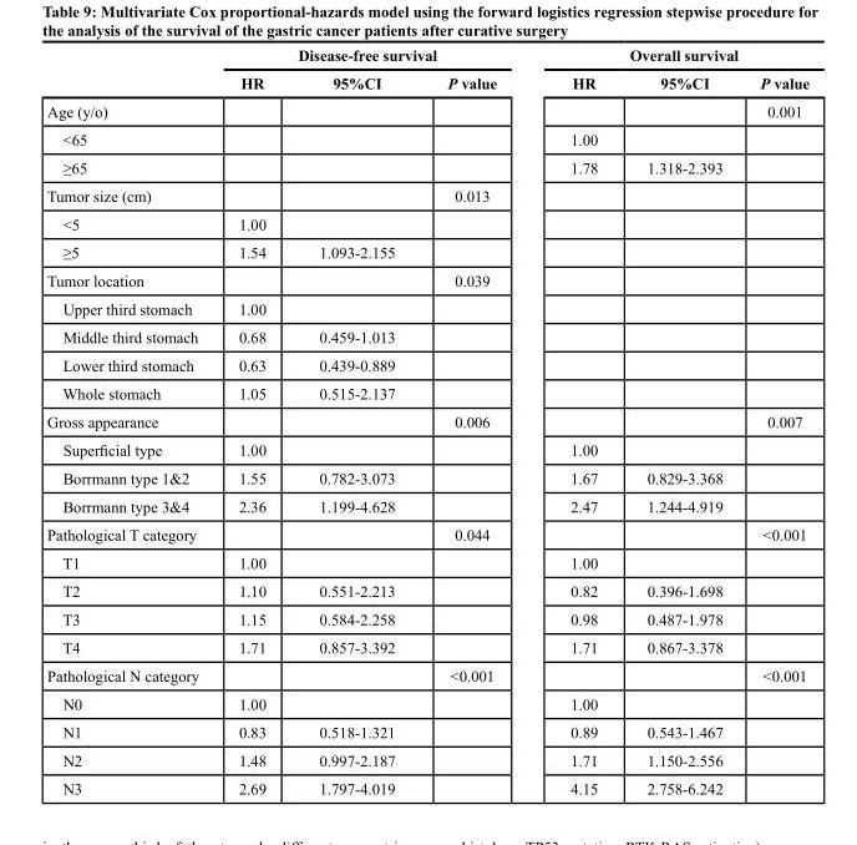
<table><thead><tr><td rowspan="2"></td><td colspan="3">Disease-free survival</td><td colspan="3">Overall survival</td></tr><tr><td>HR</td><td>95%CI</td><td>P value</td><td>HR</td><td>95%CI</td><td>P value</td></tr></thead><tbody><tr><td>Age (y/o)</td><td></td><td></td><td></td><td></td><td></td><td>0.001</td></tr><tr><td>&lt;65</td><td></td><td></td><td></td><td>1.00</td><td></td><td></td></tr><tr><td>≥65</td><td></td><td></td><td></td><td>1.78</td><td>1.318-2.393</td><td></td></tr><tr><td>Tumor size (cm)</td><td></td><td></td><td>0.013</td><td></td><td></td><td></td></tr><tr><td>&lt;5</td><td>1.00</td><td></td><td></td><td></td><td></td><td></td></tr><tr><td>≥5</td><td>1.54</td><td>1.093-2.155</td><td></td><td></td><td></td><td></td></tr><tr><td>Tumor location</td><td></td><td></td><td>0.039</td><td></td><td></td><td></td></tr><tr><td>Upper third stomach</td><td>1.00</td><td></td><td></td><td></td><td></td><td></td></tr><tr><td>Middle third stomach</td><td>0.68</td><td>0.459-1.013</td><td></td><td></td><td></td><td></td></tr><tr><td>Lower third stomach</td><td>0.63</td><td>0.439-0.889</td><td></td><td></td><td></td><td></td></tr><tr><td>Whole stomach</td><td>1.05</td><td>0.515-2.137</td><td></td><td></td><td></td><td></td></tr><tr><td>Gross appearance</td><td></td><td></td><td>0.006</td><td></td><td></td><td>0.007</td></tr><tr><td>Superficial type</td><td>1.00</td><td></td><td></td><td>1.00</td><td></td><td></td></tr><tr><td>Borrmann type 1&amp;2</td><td>1.55</td><td>0.782-3.073</td><td></td><td>1.67</td><td>0.829-3.368</td><td></td></tr><tr><td>Borrmann type 3&amp;4</td><td>2.36</td><td>1.199-4.628</td><td></td><td>2.47</td><td>1.244-4.919</td><td></td></tr><tr><td>Pathological T category</td><td></td><td></td><td>0.044</td><td></td><td></td><td>&lt;0.001</td></tr><tr><td>T1</td><td>1.00</td><td></td><td></td><td>1.00</td><td></td><td></td></tr><tr><td>T2</td><td>1.10</td><td>0.551-2.213</td><td></td><td>0.82</td><td>0.396-1.698</td><td></td></tr><tr><td>T3</td><td>1.15</td><td>0.584-2.258</td><td></td><td>0.98</td><td>0.487-1.978</td><td></td></tr><tr><td>T4</td><td>1.71</td><td>0.857-3.392</td><td></td><td>1.71</td><td>0.867-3.378</td><td></td></tr><tr><td>Pathological N category</td><td></td><td></td><td>&lt;0.001</td><td></td><td></td><td>&lt;0.001</td></tr><tr><td>N0</td><td>1.00</td><td></td><td></td><td>1.00</td><td></td><td></td></tr><tr><td>N1</td><td>0.83</td><td>0.518-1.321</td><td></td><td>0.89</td><td>0.543-1.467</td><td></td></tr><tr><td>N2</td><td>1.48</td><td>0.997-2.187</td><td></td><td>1.71</td><td>1.150-2.556</td><td></td></tr><tr><td>N3</td><td>2.69</td><td>1.797-4.019</td><td></td><td>4.15</td><td>2.758-6.242</td><td></td></tr></tbody></table>